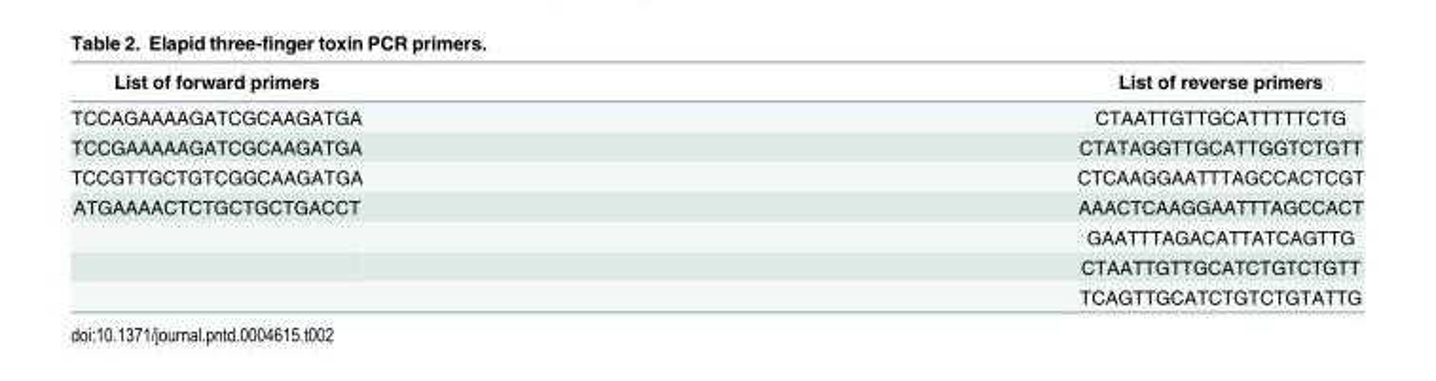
<table><thead><tr><td>List of forward primers</td><td>List of reverse primers</td></tr></thead><tbody><tr><td>TCCAGAAAAGATCGCAAGATGA</td><td>CTAATTGTTGCATTTTTCTG</td></tr><tr><td>TCCGAAAAAGATCGCAAGATGA</td><td>CTATAGGTTGCATTGGTCTGTT</td></tr><tr><td>TCCGTTGCTGTCGGCAAGATGA</td><td>CTCAAGGAATTTAGCCACTCGT</td></tr><tr><td rowspan="4">ATGAAAACTCTGCTGCTGACCT</td><td>AAACTCAAGGAATTTAGCCACT</td></tr><tr><td>GAATTTAGACATTATCAGTTG</td></tr><tr><td>CTAATTGTTGCATCTGTCTGTT</td></tr><tr><td>TCAGTTGCATCTGTCTGTATTG</td></tr></tbody></table>